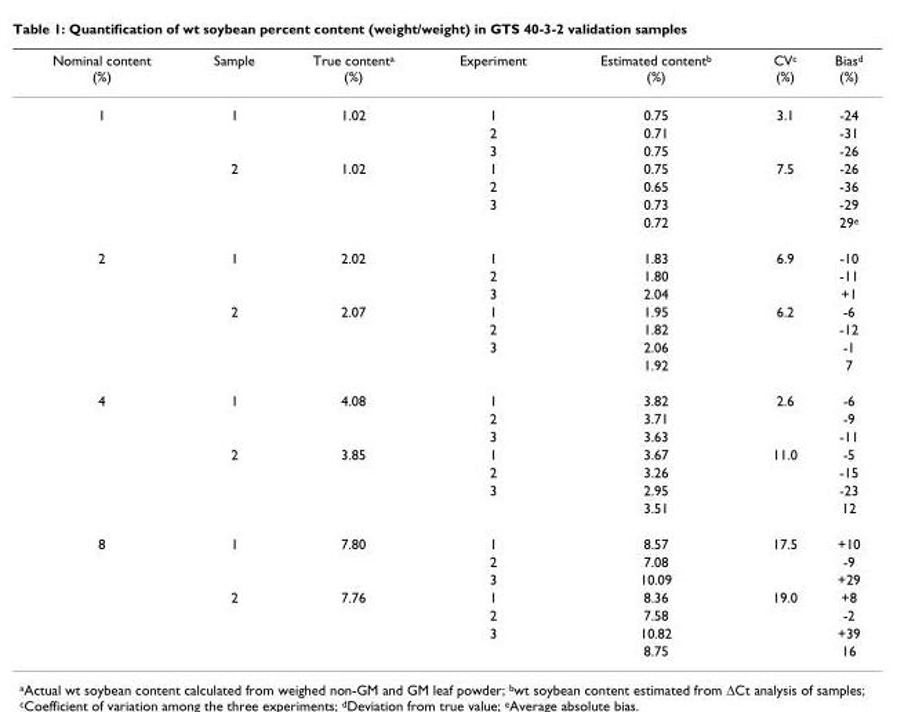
<table><thead><tr><td>Nominal content (%)</td><td>Sample</td><td>True content<sup>a</sup> (%)</td><td>Experiment</td><td>Estimated content<sup>b</sup> (%)</td><td>CV<sup>c</sup> (%)</td><td>Bias<sup>d</sup> (%)</td></tr></thead><tbody><tr><td rowspan="7">1</td><td>1</td><td>1.02</td><td>1</td><td>0.75</td><td>3.1</td><td>-24</td></tr><tr><td></td><td></td><td>2</td><td>0.71</td><td></td><td>-31</td></tr><tr><td></td><td></td><td>3</td><td>0.75</td><td></td><td>-26</td></tr><tr><td>2</td><td>1.02</td><td>1</td><td>0.75</td><td>7.5</td><td>-26</td></tr><tr><td></td><td></td><td>2</td><td>0.65</td><td></td><td>-36</td></tr><tr><td></td><td></td><td>3</td><td>0.73</td><td></td><td>-29</td></tr><tr><td></td><td></td><td></td><td>0.72</td><td></td><td>29<sup>e</sup></td></tr><tr><td rowspan="7">2</td><td>1</td><td>2.02</td><td>1</td><td>1.83</td><td>6.9</td><td>-10</td></tr><tr><td></td><td></td><td>2</td><td>1.80</td><td></td><td>-11</td></tr><tr><td></td><td></td><td>3</td><td>2.04</td><td></td><td>+1</td></tr><tr><td>2</td><td>2.07</td><td>1</td><td>1.95</td><td>6.2</td><td>-6</td></tr><tr><td></td><td></td><td>2</td><td>1.82</td><td></td><td>-12</td></tr><tr><td></td><td></td><td>3</td><td>2.06</td><td></td><td>-1</td></tr><tr><td></td><td></td><td></td><td>1.92</td><td></td><td>7</td></tr><tr><td rowspan="7">4</td><td>1</td><td>4.08</td><td>1</td><td>3.82</td><td>2.6</td><td>-6</td></tr><tr><td></td><td></td><td>2</td><td>3.71</td><td></td><td>-9</td></tr><tr><td></td><td></td><td>3</td><td>3.63</td><td></td><td>-11</td></tr><tr><td>2</td><td>3.85</td><td>1</td><td>3.67</td><td>11.0</td><td>-5</td></tr><tr><td></td><td></td><td>2</td><td>3.26</td><td></td><td>-15</td></tr><tr><td></td><td></td><td>3</td><td>2.95</td><td></td><td>-23</td></tr><tr><td></td><td></td><td></td><td>3.51</td><td></td><td>12</td></tr><tr><td rowspan="7">8</td><td>1</td><td>7.80</td><td>1</td><td>8.57</td><td>17.5</td><td>+10</td></tr><tr><td></td><td></td><td>2</td><td>7.08</td><td></td><td>-9</td></tr><tr><td></td><td></td><td>3</td><td>10.09</td><td></td><td>+29</td></tr><tr><td>2</td><td>7.76</td><td>1</td><td>8.36</td><td>19.0</td><td>+8</td></tr><tr><td></td><td></td><td>2</td><td>7.58</td><td></td><td>-2</td></tr><tr><td></td><td></td><td>3</td><td>10.82</td><td></td><td>+39</td></tr><tr><td></td><td></td><td></td><td>8.75</td><td></td><td>16</td></tr></tbody></table>